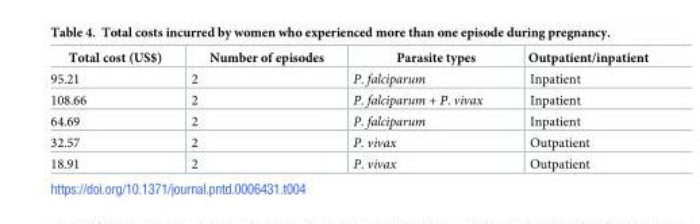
<table><thead><tr><td>Total cost (US$)</td><td>Number of episodes</td><td>Parasite types</td><td>Outpatient/inpatient</td></tr></thead><tbody><tr><td>95.21</td><td>2</td><td>P. falciparum</td><td>Inpatient</td></tr><tr><td>108.66</td><td>2</td><td>P. falciparum + P. vivax</td><td>Inpatient</td></tr><tr><td>64.69</td><td>2</td><td>P. falciparum</td><td>Inpatient</td></tr><tr><td>32.57</td><td>2</td><td>P. vivax</td><td>Outpatient</td></tr><tr><td>18.91</td><td>2</td><td>P. vivax</td><td>Outpatient</td></tr></tbody></table>